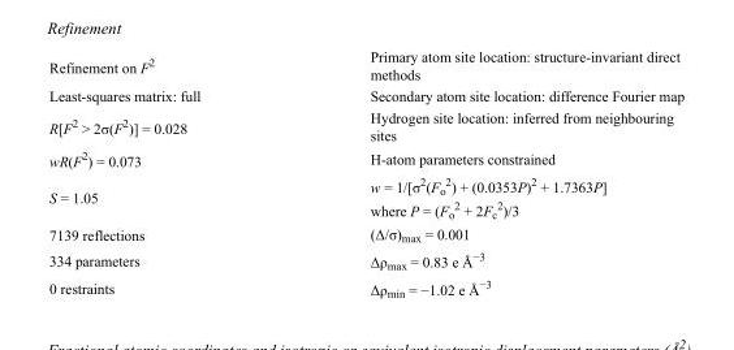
<table><tbody><tr><td>Refinement on F<sup>2</sup></td><td>Primary atom site location: structure-invariant direct methods</td></tr><tr><td>Least-squares matrix: full</td><td>Secondary atom site location: difference Fourier map</td></tr><tr><td>R[F<sup>2</sup> &gt; 2σ(F<sup>2</sup>)] = 0.028</td><td>Hydrogen site location: inferred from neighbouring sites</td></tr><tr><td>wR(F<sup>2</sup>) = 0.073</td><td>H-atom parameters constrained</td></tr><tr><td>S = 1.05</td><td>w = 1/[σ<sup>2</sup>(F<sub>o</sub> <sup>2</sup>) + (0.0353P)<sup>2</sup> + 1.7363P] where P = (F<sub>o</sub> <sup>2</sup> + 2F<sub>c</sub> <sup>2</sup>)/3</td></tr><tr><td>7139 reflections</td><td>(Δ/σ)<sub>max</sub> = 0.001</td></tr><tr><td>334 parameters</td><td>Δρ<sub>max</sub> = 0.83 e Å<sup>−3</sup></td></tr><tr><td>0 restraints</td><td>Δρ<sub>min</sub> = −1.02 e Å<sup>−3</sup></td></tr></tbody></table>